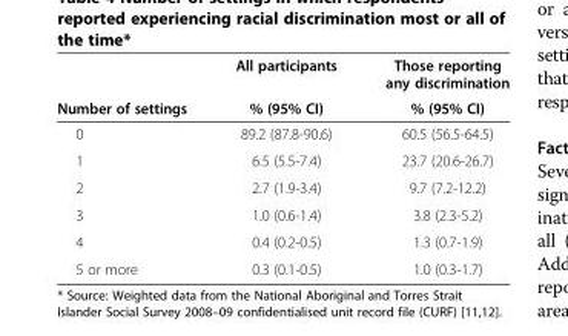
<table><thead><tr><td rowspan="2">Number of settings</td><td rowspan="2">All participants % (95% CI)</td><td rowspan="2">Those reporting any discrimination % (95% CI)</td></tr><tr></tr></thead><tbody><tr><td>0</td><td>89.2 (87.8-90.6)</td><td>60.5 (56.5-64.5)</td></tr><tr><td>1</td><td>6.5 (5.5-7.4)</td><td>23.7 (20.6-26.7)</td></tr><tr><td>2</td><td>2.7 (1.9-3.4)</td><td>9.7 (7.2-12.2)</td></tr><tr><td>3</td><td>1.0 (0.6-1.4)</td><td>3.8 (2.3-5.2)</td></tr><tr><td>4</td><td>0.4 (0.2-0.5)</td><td>1.3 (0.7-1.9)</td></tr><tr><td>5 or more</td><td>0.3 (0.1-0.5)</td><td>1.0 (0.3-1.7)</td></tr></tbody></table>